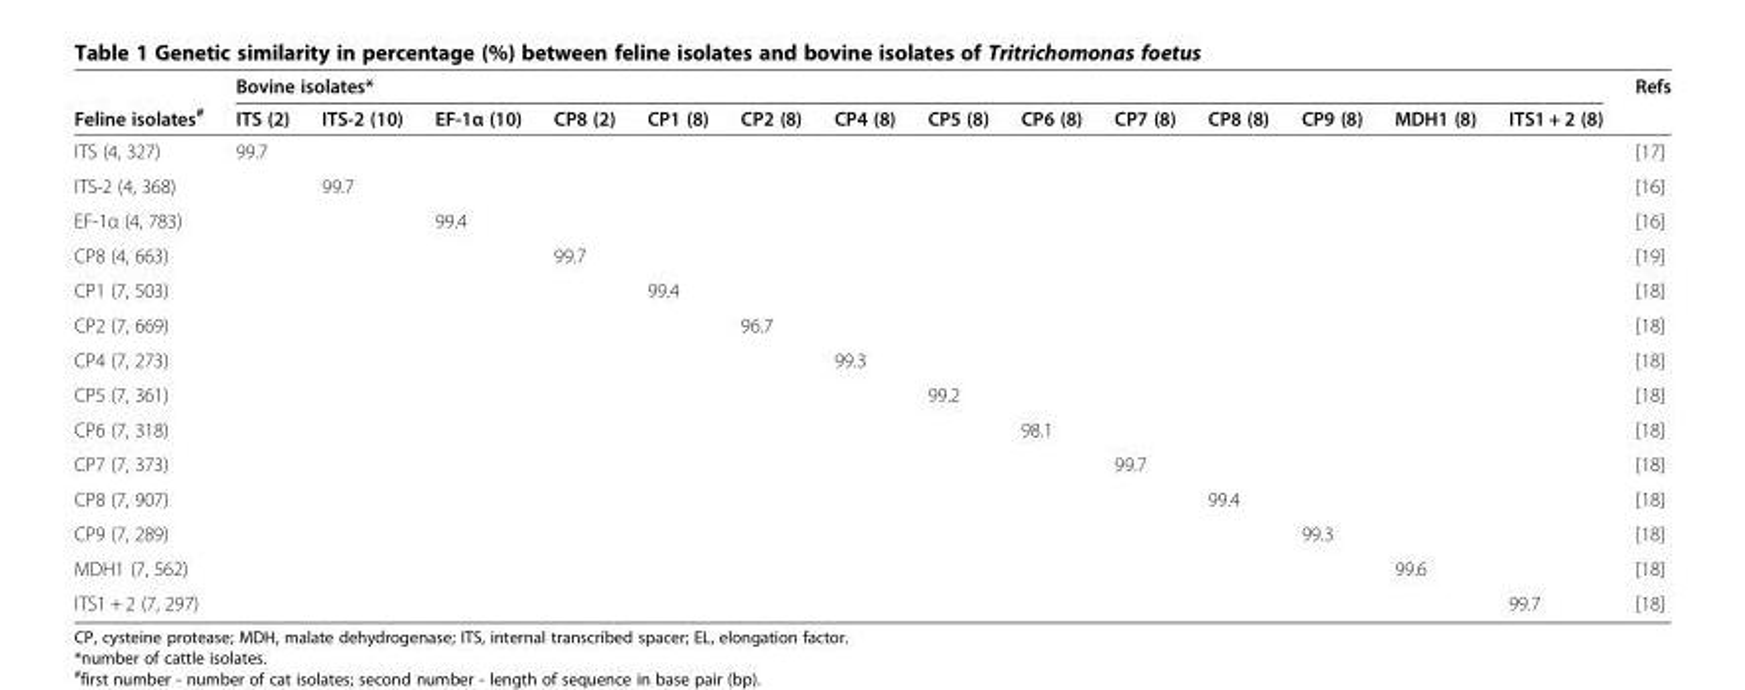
<table><thead><tr><td rowspan="2">Feline isolates<sup>#</sup></td><td colspan="14">Bovine isolates*</td><td rowspan="2">Refs</td></tr><tr><td>ITS (2)</td><td>ITS-2 (10)</td><td>EF-1α (10)</td><td>CP8 (2)</td><td>CP1 (8)</td><td>CP2 (8)</td><td>CP4 (8)</td><td>CP5 (8)</td><td>CP6 (8)</td><td>CP7 (8)</td><td>CP8 (8)</td><td>CP9 (8)</td><td>MDH1 (8)</td><td>ITS1 + 2 (8)</td></tr></thead><tbody><tr><td>ITS (4, 327)</td><td>99.7</td><td></td><td></td><td></td><td></td><td></td><td></td><td></td><td></td><td></td><td></td><td></td><td></td><td></td><td>[17]</td></tr><tr><td>ITS-2 (4, 368)</td><td></td><td>99.7</td><td></td><td></td><td></td><td></td><td></td><td></td><td></td><td></td><td></td><td></td><td></td><td></td><td>[16]</td></tr><tr><td>EF-1α (4, 783)</td><td></td><td></td><td>99.4</td><td></td><td></td><td></td><td></td><td></td><td></td><td></td><td></td><td></td><td></td><td></td><td>[16]</td></tr><tr><td>CP8 (4, 663)</td><td></td><td></td><td></td><td>99.7</td><td></td><td></td><td></td><td></td><td></td><td></td><td></td><td></td><td></td><td></td><td>[19]</td></tr><tr><td>CP1 (7, 503)</td><td></td><td></td><td></td><td></td><td>99.4</td><td></td><td></td><td></td><td></td><td></td><td></td><td></td><td></td><td></td><td>[18]</td></tr><tr><td>CP2 (7, 669)</td><td></td><td></td><td></td><td></td><td></td><td>96.7</td><td></td><td></td><td></td><td></td><td></td><td></td><td></td><td></td><td>[18]</td></tr><tr><td>CP4 (7, 273)</td><td></td><td></td><td></td><td></td><td></td><td></td><td>99.3</td><td></td><td></td><td></td><td></td><td></td><td></td><td></td><td>[18]</td></tr><tr><td>CP5 (7, 361)</td><td></td><td></td><td></td><td></td><td></td><td></td><td></td><td>99.2</td><td></td><td></td><td></td><td></td><td></td><td></td><td>[18]</td></tr><tr><td>CP6 (7, 318)</td><td></td><td></td><td></td><td></td><td></td><td></td><td></td><td></td><td>98.1</td><td></td><td></td><td></td><td></td><td></td><td>[18]</td></tr><tr><td>CP7 (7, 373)</td><td></td><td></td><td></td><td></td><td></td><td></td><td></td><td></td><td></td><td>99.7</td><td></td><td></td><td></td><td></td><td>[18]</td></tr><tr><td>CP8 (7, 907)</td><td></td><td></td><td></td><td></td><td></td><td></td><td></td><td></td><td></td><td></td><td>99.4</td><td></td><td></td><td></td><td>[18]</td></tr><tr><td>CP9 (7, 289)</td><td></td><td></td><td></td><td></td><td></td><td></td><td></td><td></td><td></td><td></td><td></td><td>99.3</td><td></td><td></td><td>[18]</td></tr><tr><td>MDH1 (7, 562)</td><td></td><td></td><td></td><td></td><td></td><td></td><td></td><td></td><td></td><td></td><td></td><td></td><td>99.6</td><td></td><td>[18]</td></tr><tr><td>ITS1 + 2 (7, 297)</td><td></td><td></td><td></td><td></td><td></td><td></td><td></td><td></td><td></td><td></td><td></td><td></td><td></td><td>99.7</td><td>[18]</td></tr></tbody></table>